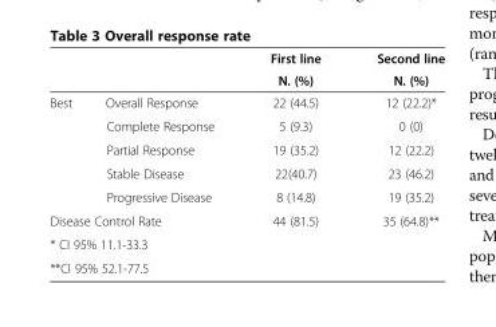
<table><thead><tr><td rowspan="2"></td><td rowspan="2">First line N. (%)</td><td rowspan="2">Second line N. (%)</td></tr><tr></tr></thead><tbody><tr><td>Best Overall Response</td><td>22 (44.5)</td><td>12 (22.2)*</td></tr><tr><td>Complete Response</td><td>5 (9.3)</td><td>0 (0)</td></tr><tr><td>Partial Response</td><td>19 (35.2)</td><td>12 (22.2)</td></tr><tr><td>Stable Disease</td><td>22(40.7)</td><td>23 (46.2)</td></tr><tr><td>Progressive Disease</td><td>8 (14.8)</td><td>19 (35.2)</td></tr><tr><td>Disease Control Rate</td><td>44 (81.5)</td><td>35 (64.8)**</td></tr><tr><td colspan="3">* CI 95% 11.1-33.3</td></tr><tr><td>**CI 95% 52.1-77.5</td><td></td><td></td></tr></tbody></table>